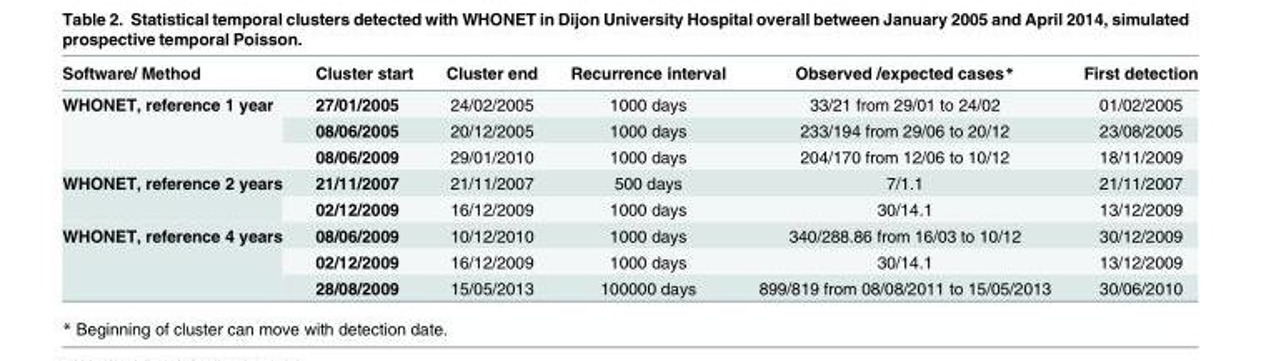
<table><thead><tr><td>Software/ Method</td><td>Cluster start</td><td>Cluster end</td><td>Recurrence interval</td><td>Observed /expected cases*</td><td>First detection</td></tr></thead><tbody><tr><td rowspan="3">WHONET, reference 1 year</td><td>27/01/2005</td><td>24/02/2005</td><td>1000 days</td><td>33/21 from 29/01 to 24/02</td><td>01/02/2005</td></tr><tr><td>08/06/2005</td><td>20/12/2005</td><td>1000 days</td><td>233/194 from 29/06 to 20/12</td><td>23/08/2005</td></tr><tr><td>08/06/2009</td><td>29/01/2010</td><td>1000 days</td><td>204/170 from 12/06 to 10/12</td><td>18/11/2009</td></tr><tr><td rowspan="2">WHONET, reference 2 years</td><td>21/11/2007</td><td>21/11/2007</td><td>500 days</td><td>7/1.1</td><td>21/11/2007</td></tr><tr><td>02/12/2009</td><td>16/12/2009</td><td>1000 days</td><td>30/14.1</td><td>13/12/2009</td></tr><tr><td rowspan="3">WHONET, reference 4 years</td><td>08/06/2009</td><td>10/12/2010</td><td>1000 days</td><td>340/288.86 from 16/03 to 10/12</td><td>30/12/2009</td></tr><tr><td>02/12/2009</td><td>16/12/2009</td><td>1000 days</td><td>30/14.1</td><td>13/12/2009</td></tr><tr><td>28/08/2009</td><td>15/05/2013</td><td>100000 days</td><td>899/819 from 08/08/2011 to 15/05/2013</td><td>30/06/2010</td></tr></tbody></table>